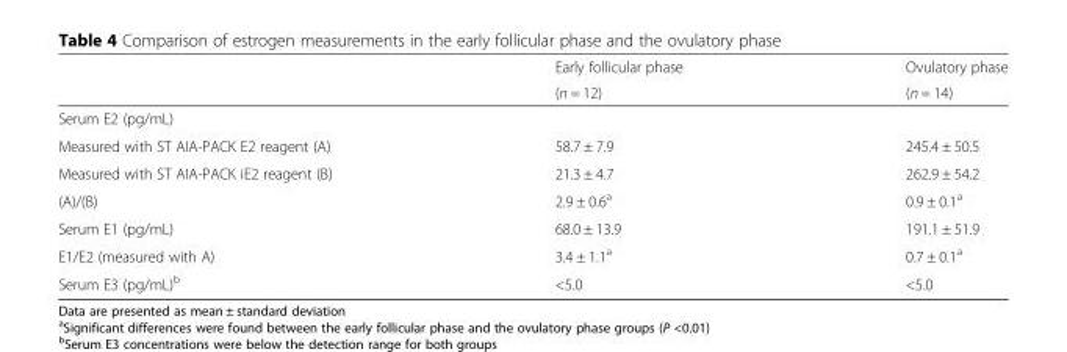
<table><thead><tr><td rowspan="2"></td><td rowspan="2">Early follicular phase (n = 12)</td><td rowspan="2">Ovulatory phase (n = 14)</td></tr><tr></tr></thead><tbody><tr><td colspan="3">Serum E2 (pg/mL)</td></tr><tr><td>Measured with ST AIA-PACK E2 reagent (A)</td><td>58.7 ± 7.9</td><td>245.4 ± 50.5</td></tr><tr><td>Measured with ST AIA-PACK iE2 reagent (B)</td><td>21.3 ± 4.7</td><td>262.9 ± 54.2</td></tr><tr><td>(A)/(B)</td><td>2.9 ± 0.6<sup>a</sup></td><td>0.9 ± 0.1<sup>a</sup></td></tr><tr><td>Serum E1 (pg/mL)</td><td>68.0 ± 13.9</td><td>191.1 ± 51.9</td></tr><tr><td>E1/E2 (measured with A)</td><td>3.4 ± 1.1<sup>a</sup></td><td>0.7 ± 0.1<sup>a</sup></td></tr><tr><td>Serum E3 (pg/mL)<sup>b</sup></td><td>&lt;5.0</td><td>&lt;5.0</td></tr></tbody></table>